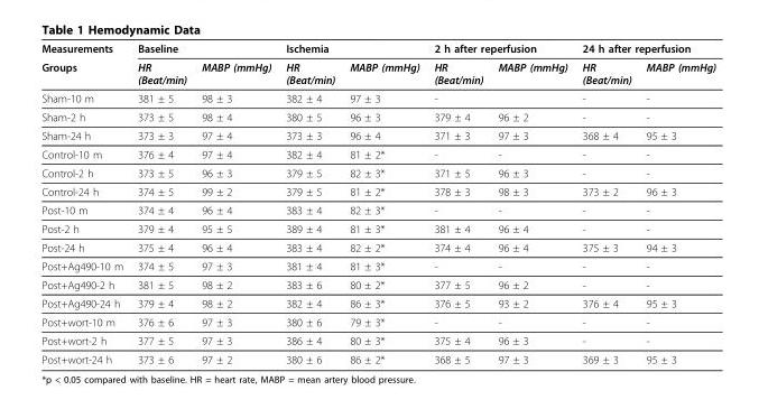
<table><thead><tr><td rowspan="2">Measurements Groups</td><td colspan="2">Baseline</td><td colspan="2">Ischemia</td><td colspan="2">2 h after reperfusion</td><td colspan="2">24 h after reperfusion</td></tr><tr><td>HR (Beat/min)</td><td>MABP (mmHg)</td><td>HR (Beat/min)</td><td>MABP (mmHg)</td><td>HR (Beat/min)</td><td>MABP (mmHg)</td><td>HR (Beat/min)</td><td>MABP (mmHg)</td></tr></thead><tbody><tr><td>Sham-10 m</td><td>381 ± 5</td><td>98 ± 3</td><td>382 ± 4</td><td>97 ± 3</td><td>-</td><td></td><td>-</td><td>-</td></tr><tr><td>Sham-2 h</td><td>373 ± 5</td><td>98 ± 4</td><td>380 ± 5</td><td>96 ± 3</td><td>379 ± 4</td><td>96 ± 2</td><td>-</td><td>-</td></tr><tr><td>Sham-24 h</td><td>373 ± 3</td><td>97 ± 4</td><td>373 ± 3</td><td>96 ± 4</td><td>371 ± 3</td><td>97 ± 3</td><td>368 ± 4</td><td>95 ± 3</td></tr><tr><td>Control-10 m</td><td>376 ± 4</td><td>97 ± 4</td><td>382 ± 4</td><td>81 ± 2*</td><td>-</td><td>-</td><td>-</td><td>-</td></tr><tr><td>Control-2 h</td><td>373 ± 5</td><td>96 ± 3</td><td>379 ± 5</td><td>82 ± 3*</td><td>371 ± 5</td><td>96 ± 3</td><td>-</td><td>-</td></tr><tr><td>Control-24 h</td><td>374 ± 5</td><td>99 ± 2</td><td>379 ± 5</td><td>81 ± 2*</td><td>378 ± 3</td><td>98 ± 3</td><td>373 ± 2</td><td>96 ± 3</td></tr><tr><td>Post-10 m</td><td>374 ± 4</td><td>96 ± 4</td><td>383 ± 4</td><td>82 ± 3*</td><td>-</td><td>-</td><td>-</td><td>-</td></tr><tr><td>Post-2 h</td><td>379 ± 4</td><td>95 ± 5</td><td>389 ± 4</td><td>81 ± 3*</td><td>381 ± 4</td><td>96 ± 4</td><td>-</td><td>-</td></tr><tr><td>Post-24 h</td><td>375 ± 4</td><td>96 ± 4</td><td>383 ± 4</td><td>82 ± 2*</td><td>374 ± 4</td><td>96 ± 4</td><td>375 ± 3</td><td>94 ± 3</td></tr><tr><td>Post+Ag490-10 m</td><td>374 ± 5</td><td>97 ± 3</td><td>381 ± 4</td><td>81 ± 3*</td><td>-</td><td>-</td><td>-</td><td>-</td></tr><tr><td>Post+Ag490-2 h</td><td>381 ± 5</td><td>98 ± 2</td><td>383 ± 6</td><td>80 ± 2*</td><td>377 ± 5</td><td>96 ± 2</td><td>-</td><td>-</td></tr><tr><td>Post+Ag490-24 h</td><td>379 ± 4</td><td>98 ± 2</td><td>382 ± 4</td><td>86 ± 3*</td><td>376 ± 5</td><td>93 ± 2</td><td>376 ± 4</td><td>95 ± 3</td></tr><tr><td>Post+wort-10 m</td><td>376 ± 6</td><td>97 ± 3</td><td>380 ± 6</td><td>79 ± 3*</td><td>-</td><td>-</td><td>-</td><td>-</td></tr><tr><td>Post+wort-2 h</td><td>377 ± 5</td><td>97 ± 3</td><td>386 ± 4</td><td>80 ± 3*</td><td>375 ± 4</td><td>96 ± 3</td><td>-</td><td>-</td></tr><tr><td>Post+wort-24 h</td><td>373 ± 6</td><td>97 ± 2</td><td>380 ± 6</td><td>86 ± 2*</td><td>368 ± 5</td><td>97 ± 3</td><td>369 ± 3</td><td>95 ± 3</td></tr></tbody></table>